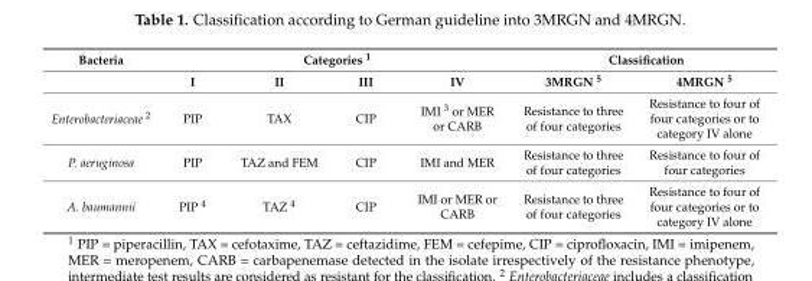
<table><thead><tr><td rowspan="2">Bacteria</td><td colspan="4">Categories <sup>1</sup></td><td colspan="2">Classification</td></tr><tr><td>I</td><td>II</td><td>III</td><td>IV</td><td>3MRGN <sup>5</sup></td><td>4MRGN <sup>5</sup></td></tr></thead><tbody><tr><td>Enterobacteriaceae <sup>2</sup></td><td>PIP</td><td>TAX</td><td>CIP</td><td>IMI <sup>3</sup> or MER or CARB</td><td>Resistance to three of four categories</td><td>Resistance to four of four categories or to category IV alone</td></tr><tr><td>P. aeruginosa</td><td>PIP</td><td>TAZ and FEM</td><td>CIP</td><td>IMI and MER</td><td>Resistance to three of four categories</td><td>Resistance to four of four categories</td></tr><tr><td>A. baumannii</td><td>PIP <sup>4</sup></td><td>TAZ <sup>4</sup></td><td>CIP</td><td>IMI or MER or CARB</td><td>Resistance to three of four categories</td><td>Resistance to four of four categories or to category IV alone</td></tr></tbody></table>